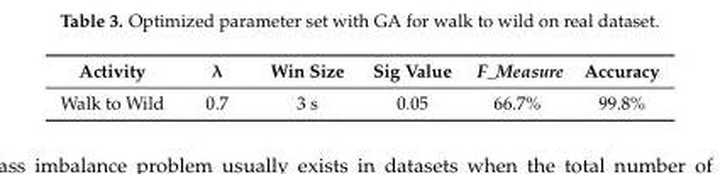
<table><thead><tr><td>Activity</td><td>λ</td><td>Win Size</td><td>Sig Value</td><td>F_Measure</td><td>Accuracy</td></tr></thead><tbody><tr><td>Walk to Wild</td><td>0.7</td><td>3 s</td><td>0.05</td><td>66.7%</td><td>99.8%</td></tr></tbody></table>